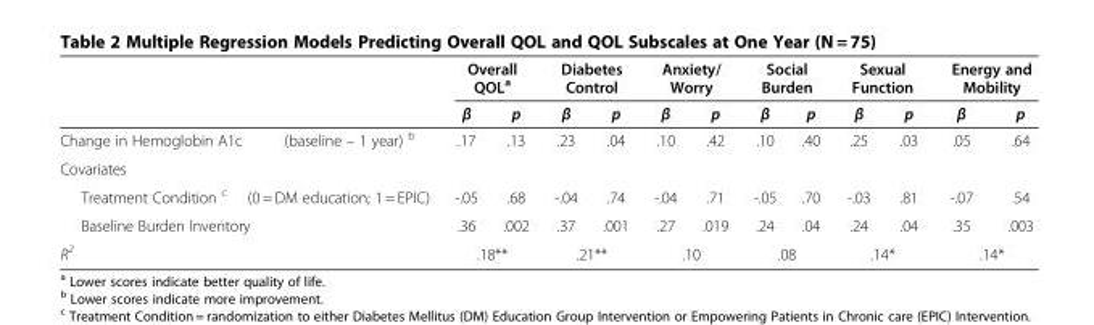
<table><thead><tr><td rowspan="2"></td><td colspan="2">Overall QOL<sup>a</sup></td><td colspan="2">Diabetes Control</td><td colspan="2">Anxiety/ Worry</td><td colspan="2">Social Burden</td><td colspan="2">Sexual Function</td><td colspan="2">Energy and Mobility</td></tr><tr><td>β</td><td>p</td><td>β</td><td>p</td><td>β</td><td>p</td><td>β</td><td>p</td><td>β</td><td>p</td><td>β</td><td>p</td></tr></thead><tbody><tr><td>Change in Hemoglobin A1c (baseline – 1 year) <sup>b</sup></td><td>.17</td><td>.13</td><td>.23</td><td>.04</td><td>.10</td><td>.42</td><td>.10</td><td>.40</td><td>.25</td><td>.03</td><td>.05</td><td>.64</td></tr><tr><td colspan="13">Covariates</td></tr><tr><td>Treatment Condition <sup>c</sup> (0 = DM education; 1 = EPIC)</td><td>-.05</td><td>.68</td><td>-.04</td><td>.74</td><td>-.04</td><td>.71</td><td>-.05</td><td>.70</td><td>-.03</td><td>.81</td><td>-.07</td><td>.54</td></tr><tr><td>Baseline Burden Inventory</td><td>.36</td><td>.002</td><td>.37</td><td>.001</td><td>.27</td><td>.019</td><td>.24</td><td>.04</td><td>.24</td><td>.04</td><td>.35</td><td>.003</td></tr><tr><td>R<sup>2</sup></td><td colspan="2">.18**</td><td colspan="2">.21**</td><td colspan="2">.10</td><td colspan="2">.08</td><td colspan="2">.14*</td><td colspan="2">.14*</td></tr></tbody></table>